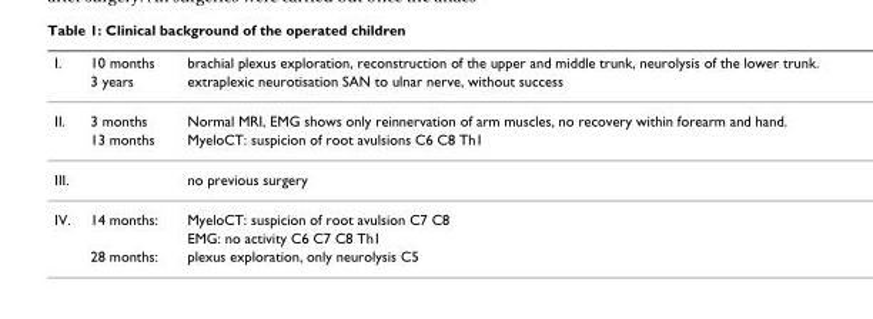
<table><thead><tr><td rowspan="2">I.</td><td rowspan="2">10 months 3 years</td><td rowspan="2">brachial plexus exploration, reconstruction of the upper and middle trunk, neurolysis of the lower trunk. extraplexic neurotisation SAN to ulnar nerve, without success</td></tr><tr></tr></thead><tbody><tr><td rowspan="2">II.</td><td>3 months</td><td>Normal MRI, EMG shows only reinnervation of arm muscles, no recovery within forearm and hand.</td></tr><tr><td>13 months</td><td>MyeloCT: suspicion of root avulsions C6 C8 Th1</td></tr><tr><td>III.</td><td></td><td>no previous surgery</td></tr><tr><td rowspan="3">IV.</td><td>14 months:</td><td>MyeloCT: suspicion of root avulsion C7 C8</td></tr><tr><td></td><td>EMG: no activity C6 C7 C8 Th1</td></tr><tr><td>28 months:</td><td>plexus exploration, only neurolysis C5</td></tr></tbody></table>